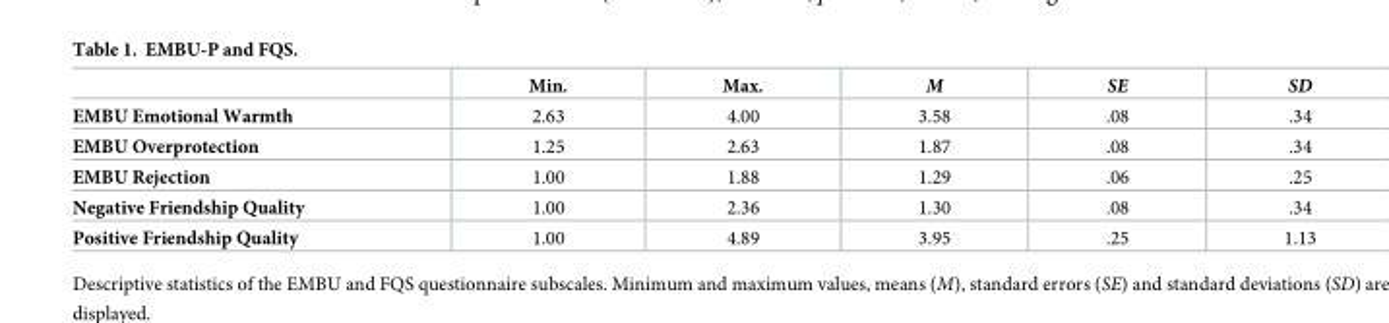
<table><thead><tr><td></td><td>Min.</td><td>Max.</td><td>M</td><td>SE</td><td>SD</td></tr></thead><tbody><tr><td>EMBU Emotional Warmth</td><td>2.63</td><td>4.00</td><td>3.58</td><td>.08</td><td>.34</td></tr><tr><td>EMBU Overprotection</td><td>1.25</td><td>2.63</td><td>1.87</td><td>.08</td><td>.34</td></tr><tr><td>EMBU Rejection</td><td>1.00</td><td>1.88</td><td>1.29</td><td>.06</td><td>.25</td></tr><tr><td>Negative Friendship Quality</td><td>1.00</td><td>2.36</td><td>1.30</td><td>.08</td><td>.34</td></tr><tr><td>Positive Friendship Quality</td><td>1.00</td><td>4.89</td><td>3.95</td><td>.25</td><td>1.13</td></tr></tbody></table>